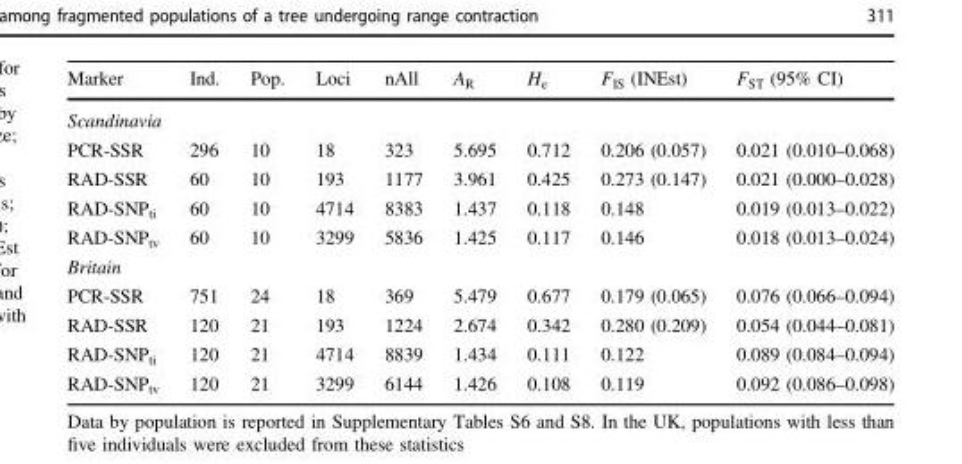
<table><thead><tr><td>Marker</td><td>Ind.</td><td>Pop.</td><td>Loci</td><td>nAll</td><td>A<sub>R</sub></td><td>H<sub>e</sub></td><td>F<sub>IS</sub> (INEst)</td><td>F<sub>ST</sub> (95% CI)</td></tr></thead><tbody><tr><td colspan="9">Scandinavia</td></tr><tr><td>PCR-SSR</td><td>296</td><td>10</td><td>18</td><td>323</td><td>5.695</td><td>0.712</td><td>0.206 (0.057)</td><td>0.021 (0.010–0.068)</td></tr><tr><td>RAD-SSR</td><td>60</td><td>10</td><td>193</td><td>1177</td><td>3.961</td><td>0.425</td><td>0.273 (0.147)</td><td>0.021 (0.000–0.028)</td></tr><tr><td>RAD-SNP<sub>ti</sub></td><td>60</td><td>10</td><td>4714</td><td>8383</td><td>1.437</td><td>0.118</td><td>0.148</td><td>0.019 (0.013–0.022)</td></tr><tr><td>RAD-SNP<sub>tv</sub></td><td>60</td><td>10</td><td>3299</td><td>5836</td><td>1.425</td><td>0.117</td><td>0.146</td><td>0.018 (0.013–0.024)</td></tr><tr><td colspan="9">Britain</td></tr><tr><td>PCR-SSR</td><td>751</td><td>24</td><td>18</td><td>369</td><td>5.479</td><td>0.677</td><td>0.179 (0.065)</td><td>0.076 (0.066–0.094)</td></tr><tr><td>RAD-SSR</td><td>120</td><td>21</td><td>193</td><td>1224</td><td>2.674</td><td>0.342</td><td>0.280 (0.209)</td><td>0.054 (0.044–0.081)</td></tr><tr><td>RAD-SNP<sub>ti</sub></td><td>120</td><td>21</td><td>4714</td><td>8839</td><td>1.434</td><td>0.111</td><td>0.122</td><td>0.089 (0.084–0.094)</td></tr><tr><td>RAD-SNP<sub>tv</sub></td><td>120</td><td>21</td><td>3299</td><td>6144</td><td>1.426</td><td>0.108</td><td>0.119</td><td>0.092 (0.086–0.098)</td></tr></tbody></table>